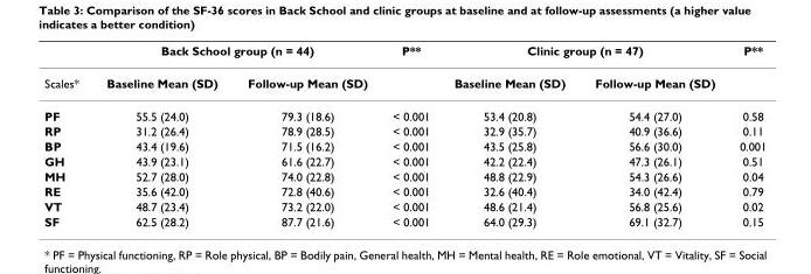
<table><thead><tr><td rowspan="2">Scales*</td><td colspan="2">Back School group (n = 44)</td><td rowspan="2">P**</td><td colspan="2">Clinic group (n = 47)</td><td rowspan="2">P**</td></tr><tr><td>Baseline Mean (SD)</td><td>Follow-up Mean (SD)</td><td>Baseline Mean (SD)</td><td>Follow-up Mean (SD)</td></tr></thead><tbody><tr><td>PF</td><td>55.5 (24.0)</td><td>79.3 (18.6)</td><td>&lt; 0.001</td><td>53.4 (20.8)</td><td>54.4 (27.0)</td><td>0.58</td></tr><tr><td>RP</td><td>31.2 (26.4)</td><td>78.9 (28.5)</td><td>&lt; 0.001</td><td>32.9 (35.7)</td><td>40.9 (36.6)</td><td>0.11</td></tr><tr><td>BP</td><td>43.4 (19.6)</td><td>71.5 (16.2)</td><td>&lt; 0.001</td><td>43.5 (25.8)</td><td>56.6 (30.0)</td><td>0.001</td></tr><tr><td>GH</td><td>43.9 (23.1)</td><td>61.6 (22.7)</td><td>&lt; 0.001</td><td>42.2 (22.4)</td><td>47.3 (26.1)</td><td>0.51</td></tr><tr><td>MH</td><td>52.7 (28.0)</td><td>74.0 (22.8)</td><td>&lt; 0.001</td><td>48.8 (22.9)</td><td>54.3 (26.6)</td><td>0.04</td></tr><tr><td>RE</td><td>35.6 (42.0)</td><td>72.8 (40.6)</td><td>&lt; 0.001</td><td>32.6 (40.4)</td><td>34.0 (42.4)</td><td>0.79</td></tr><tr><td>VT</td><td>48.7 (23.4)</td><td>73.2 (22.0)</td><td>&lt; 0.001</td><td>48.6 (21.4)</td><td>56.8 (25.6)</td><td>0.02</td></tr><tr><td>SF</td><td>62.5 (28.2)</td><td>87.7 (21.6)</td><td>&lt; 0.001</td><td>64.0 (29.3)</td><td>69.1 (32.7)</td><td>0.15</td></tr></tbody></table>